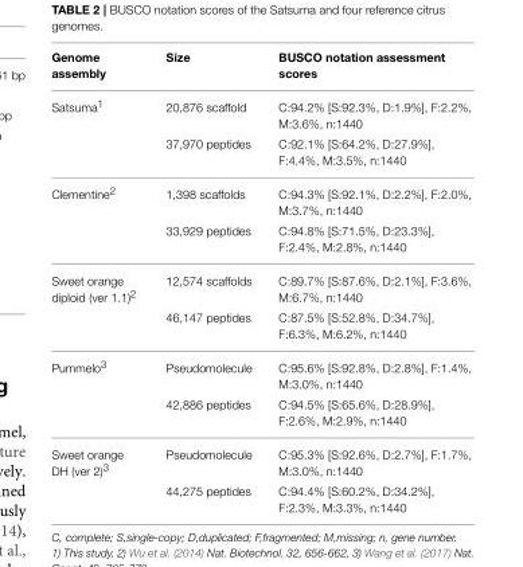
<table><thead><tr><td>Genome assembly</td><td>Size</td><td>BUSCO notation assessment scores</td></tr></thead><tbody><tr><td rowspan="2">Satsuma<sup>1</sup></td><td>20,876 scaffold</td><td>C:94.2% [S:92.3%, D:1.9%], F:2.2%, M:3.6%, n:1440</td></tr><tr><td>37,970 peptides</td><td>C:92.1% [S:64.2%, D:27.9%], F:4.4%, M:3.5%, n:1440</td></tr><tr><td rowspan="2">Clementine<sup>2</sup></td><td>1,398 scaffolds</td><td>C:94.3% [S:92.1%, D:2.2%], F:2.0%, M:3.7%, n:1440</td></tr><tr><td>33,929 peptides</td><td>C:94.8% [S:71.5%, D:23.3%], F:2.4%, M:2.8%, n:1440</td></tr><tr><td rowspan="2">Sweet orange diploid (ver 1.1)<sup>2</sup></td><td>12,574 scaffolds</td><td>C:89.7% [S:87.6%, D:2.1%], F:3.6%, M:6.7%, n:1440</td></tr><tr><td>46,147 peptides</td><td>C:87.5% [S:52.8%, D:34.7%], F:6.3%, M:6.2%, n:1440</td></tr><tr><td rowspan="2">Pummelo<sup>3</sup></td><td>Pseudomolecule</td><td>C:95.6% [S:92.8%, D:2.8%], F:1.4%, M:3.0%, n:1440</td></tr><tr><td>42,886 peptides</td><td>C:94.5% [S:65.6%, D:28.9%], F:2.6%, M:2.9%, n:1440</td></tr><tr><td rowspan="2">Sweet orange DH (ver 2)<sup>3</sup></td><td>Pseudomolecule</td><td>C:95.3% [S:92.6%, D:2.7%], F:1.7%, M:3.0%, n:1440</td></tr><tr><td>44,275 peptides</td><td>C:94.4% [S:60.2%, D:34.2%], F:2.3%, M:3.3%, n:1440</td></tr></tbody></table>